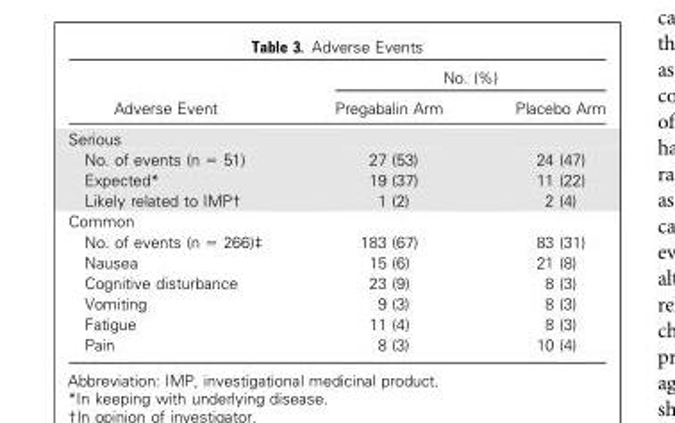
<table><thead><tr><td rowspan="2">Adverse Event</td><td colspan="2">No. (%)</td></tr><tr><td>Pregabalin Arm</td><td>Placebo Arm</td></tr></thead><tbody><tr><td colspan="3">Serious</td></tr><tr><td>No. of events (n = 51)</td><td>27 (53)</td><td>24 (47)</td></tr><tr><td>Expected*</td><td>19 (37)</td><td>11 (22)</td></tr><tr><td>Likely related to IMP†</td><td>1 (2)</td><td>2 (4)</td></tr><tr><td colspan="3">Common</td></tr><tr><td>No. of events (n = 266)‡</td><td>183 (67)</td><td>83 (31)</td></tr><tr><td>Nausea</td><td>15 (6)</td><td>21 (8)</td></tr><tr><td>Cognitive disturbance</td><td>23 (9)</td><td>8 (3)</td></tr><tr><td>Vomiting</td><td>9 (3)</td><td>8 (3)</td></tr><tr><td>Fatigue</td><td>11 (4)</td><td>8 (3)</td></tr><tr><td>Pain</td><td>8 (3)</td><td>10 (4)</td></tr></tbody></table>